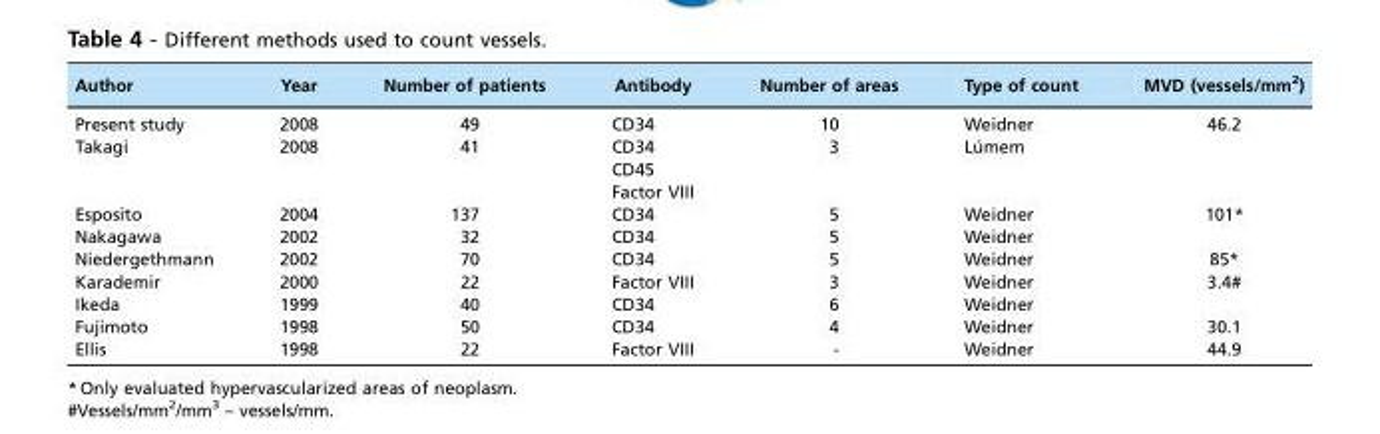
<table><thead><tr><td>Author</td><td>Year</td><td>Number of patients</td><td>Antibody</td><td>Number of areas</td><td>Type of count</td><td>MVD (vessels/mm<sup>2</sup>)</td></tr></thead><tbody><tr><td>Present study</td><td>2008</td><td>49</td><td>CD34</td><td>10</td><td>Weidner</td><td>46.2</td></tr><tr><td>Takagi</td><td>2008</td><td>41</td><td>CD34 CD45 Factor VIII</td><td>3</td><td>Lu´ mem</td><td></td></tr><tr><td>Esposito</td><td>2004</td><td>137</td><td>CD34</td><td>5</td><td>Weidner</td><td>101*</td></tr><tr><td>Nakagawa</td><td>2002</td><td>32</td><td>CD34</td><td>5</td><td>Weidner</td><td></td></tr><tr><td>Niedergethmann</td><td>2002</td><td>70</td><td>CD34</td><td>5</td><td>Weidner</td><td>85*</td></tr><tr><td>Karademir</td><td>2000</td><td>22</td><td>Factor VIII</td><td>3</td><td>Weidner</td><td>3.4#</td></tr><tr><td>Ikeda</td><td>1999</td><td>40</td><td>CD34</td><td>6</td><td>Weidner</td><td></td></tr><tr><td>Fujimoto</td><td>1998</td><td>50</td><td>CD34</td><td>4</td><td>Weidner</td><td>30.1</td></tr><tr><td>Ellis</td><td>1998</td><td>22</td><td>Factor VIII</td><td>-</td><td>Weidner</td><td>44.9</td></tr></tbody></table>